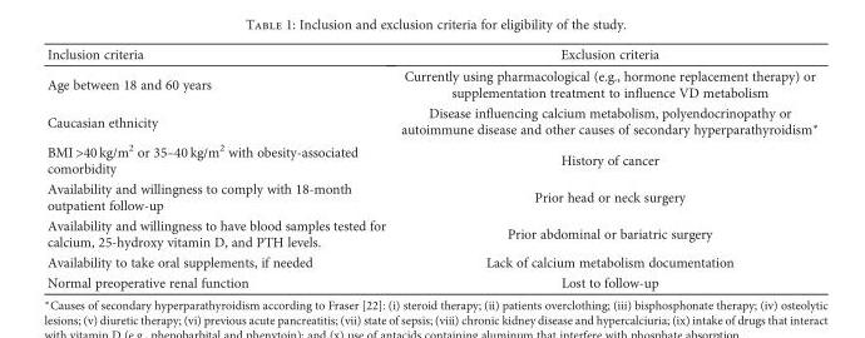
<table><thead><tr><td>Inclusion criteria</td><td>Exclusion criteria</td></tr></thead><tbody><tr><td>Age between 18 and 60 years</td><td>Currently using pharmacological (e.g., hormone replacement therapy) or supplementation treatment to influence VD metabolism</td></tr><tr><td>Caucasian ethnicity</td><td>Disease influencing calcium metabolism, polyendocrinopathy or autoimmune disease and other causes of secondary hyperparathyroidism∗</td></tr><tr><td>BMI &gt;40 kg/m<sup>2</sup> or 35–40 kg/m<sup>2</sup> with obesity-associated comorbidity</td><td>History of cancer</td></tr><tr><td>Availability and willingness to comply with 18-month outpatient follow-up</td><td>Prior head or neck surgery</td></tr><tr><td>Availability and willingness to have blood samples tested for calcium, 25-hydroxy vitamin D, and PTH levels.</td><td>Prior abdominal or bariatric surgery</td></tr><tr><td>Availability to take oral supplements, if needed</td><td>Lack of calcium metabolism documentation</td></tr><tr><td>Normal preoperative renal function</td><td>Lost to follow-up</td></tr></tbody></table>